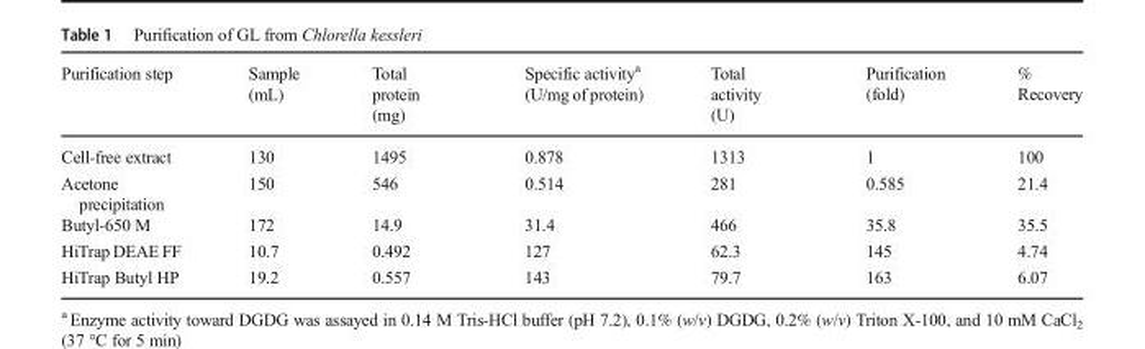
<table><thead><tr><td>Purification step</td><td>Sample (mL)</td><td>Total protein (mg)</td><td>Specific activity<sup>a</sup> (U/mg of protein)</td><td>Total activity (U)</td><td>Purification (fold)</td><td>% Recovery</td></tr></thead><tbody><tr><td>Cell-free extract</td><td>130</td><td>1495</td><td>0.878</td><td>1313</td><td>1</td><td>100</td></tr><tr><td>Acetone precipitation</td><td>150</td><td>546</td><td>0.514</td><td>281</td><td>0.585</td><td>21.4</td></tr><tr><td>Butyl-650 M</td><td>172</td><td>14.9</td><td>31.4</td><td>466</td><td>35.8</td><td>35.5</td></tr><tr><td>HiTrap DEAE FF</td><td>10.7</td><td>0.492</td><td>127</td><td>62.3</td><td>145</td><td>4.74</td></tr><tr><td>HiTrap Butyl HP</td><td>19.2</td><td>0.557</td><td>143</td><td>79.7</td><td>163</td><td>6.07</td></tr></tbody></table>